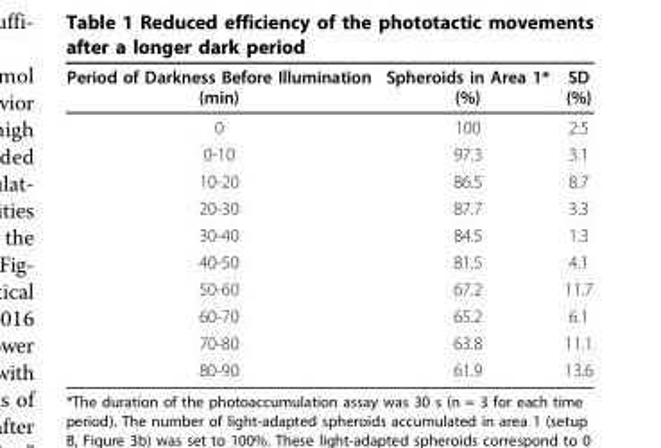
<table><thead><tr><td>Period of Darkness Before Illumination (min)</td><td>Spheroids in Area 1* (%)</td><td>SD (%)</td></tr></thead><tbody><tr><td>0</td><td>100</td><td>2.5</td></tr><tr><td>0-10</td><td>97.3</td><td>3.1</td></tr><tr><td>10-20</td><td>86.5</td><td>8.7</td></tr><tr><td>20-30</td><td>87.7</td><td>3.3</td></tr><tr><td>30-40</td><td>84.5</td><td>1.3</td></tr><tr><td>40-50</td><td>81.5</td><td>4.1</td></tr><tr><td>50-60</td><td>67.2</td><td>11.7</td></tr><tr><td>60-70</td><td>65.2</td><td>6.1</td></tr><tr><td>70-80</td><td>63.8</td><td>11.1</td></tr><tr><td>80-90</td><td>61.9</td><td>13.6</td></tr></tbody></table>